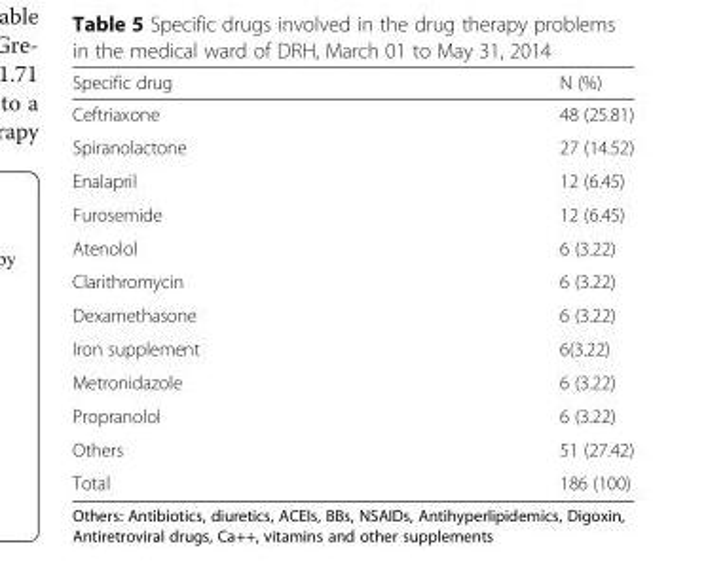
<table><thead><tr><td>Specific drug</td><td>N (%)</td></tr></thead><tbody><tr><td>Ceftriaxone</td><td>48 (25.81)</td></tr><tr><td>Spiranolactone</td><td>27 (14.52)</td></tr><tr><td>Enalapril</td><td>12 (6.45)</td></tr><tr><td>Furosemide</td><td>12 (6.45)</td></tr><tr><td>Atenolol</td><td>6 (3.22)</td></tr><tr><td>Clarithromycin</td><td>6 (3.22)</td></tr><tr><td>Dexamethasone</td><td>6 (3.22)</td></tr><tr><td>Iron supplement</td><td>6(3.22)</td></tr><tr><td>Metronidazole</td><td>6 (3.22)</td></tr><tr><td>Propranolol</td><td>6 (3.22)</td></tr><tr><td>Others</td><td>51 (27.42)</td></tr><tr><td>Total</td><td>186 (100)</td></tr></tbody></table>